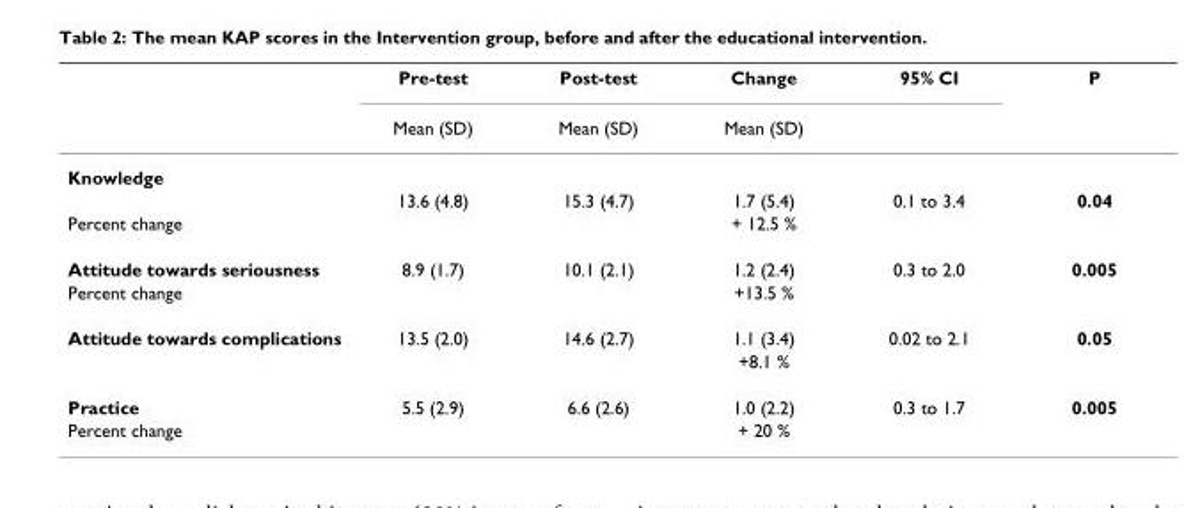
<table><thead><tr><td rowspan="2"></td><td rowspan="2">Pre-test Mean (SD)</td><td rowspan="2">Post-test Mean (SD)</td><td rowspan="2">Change Mean (SD)</td><td rowspan="2">95% CI</td><td rowspan="2">P</td></tr><tr></tr></thead><tbody><tr><td colspan="6">Knowledge</td></tr><tr><td></td><td>13.6 (4.8)</td><td>15.3 (4.7)</td><td>1.7 (5.4)</td><td>0.1 to 3.4</td><td>0.04</td></tr><tr><td>Percent change</td><td></td><td></td><td>+ 12.5 %</td><td></td><td></td></tr><tr><td>Attitude towards seriousness</td><td>8.9 (1.7)</td><td>10.1 (2.1)</td><td>1.2 (2.4)</td><td>0.3 to 2.0</td><td>0.005</td></tr><tr><td>Percent change</td><td></td><td></td><td>+13.5 %</td><td></td><td></td></tr><tr><td rowspan="2">Attitude towards complications</td><td>13.5 (2.0)</td><td>14.6 (2.7)</td><td>1.1 (3.4)</td><td>0.02 to 2.1</td><td>0.05</td></tr><tr><td></td><td></td><td>+8.1 %</td><td></td><td></td></tr><tr><td>Practice</td><td>5.5 (2.9)</td><td>6.6 (2.6)</td><td>1.0 (2.2)</td><td>0.3 to 1.7</td><td>0.005</td></tr><tr><td>Percent change</td><td></td><td></td><td>+ 20 %</td><td></td><td></td></tr></tbody></table>